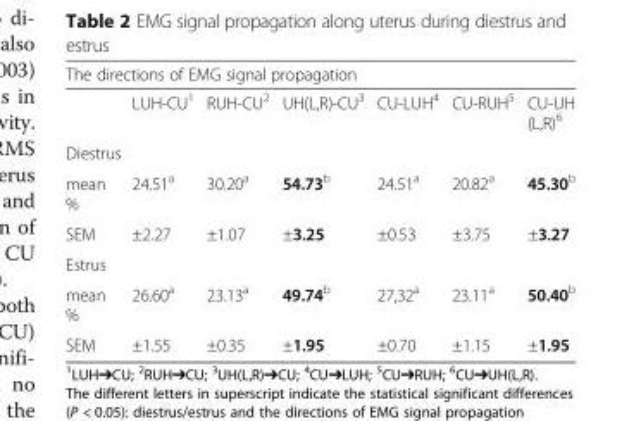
<table><thead><tr><td colspan="7">The directions of EMG signal propagation</td></tr><tr><td></td><td>LUH-CU<sup>1</sup></td><td>RUH-CU<sup>2</sup></td><td>UH(L,R)-CU<sup>3</sup></td><td>CU-LUH<sup>4</sup></td><td>CU-RUH<sup>5</sup></td><td>CU-UH (L,R)<sup>6</sup></td></tr></thead><tbody><tr><td colspan="7">Diestrus</td></tr><tr><td>mean %</td><td>24.51<sup>a</sup></td><td>30.20<sup>a</sup></td><td>54.73<sup>b</sup></td><td>24.51<sup>a</sup></td><td>20.82<sup>a</sup></td><td>45.30<sup>b</sup></td></tr><tr><td>SEM</td><td>±2.27</td><td>±1.07</td><td>±3.25</td><td>±0.53</td><td>±3.75</td><td>±3.27</td></tr><tr><td colspan="7">Estrus</td></tr><tr><td>mean %</td><td>26.60<sup>a</sup></td><td>23.13<sup>a</sup></td><td>49.74<sup>b</sup></td><td>27,32<sup>a</sup></td><td>23.11<sup>a</sup></td><td>50.40<sup>b</sup></td></tr><tr><td>SEM</td><td>±1.55</td><td>±0.35</td><td>±1.95</td><td>±0.70</td><td>±1.15</td><td>±1.95</td></tr></tbody></table>